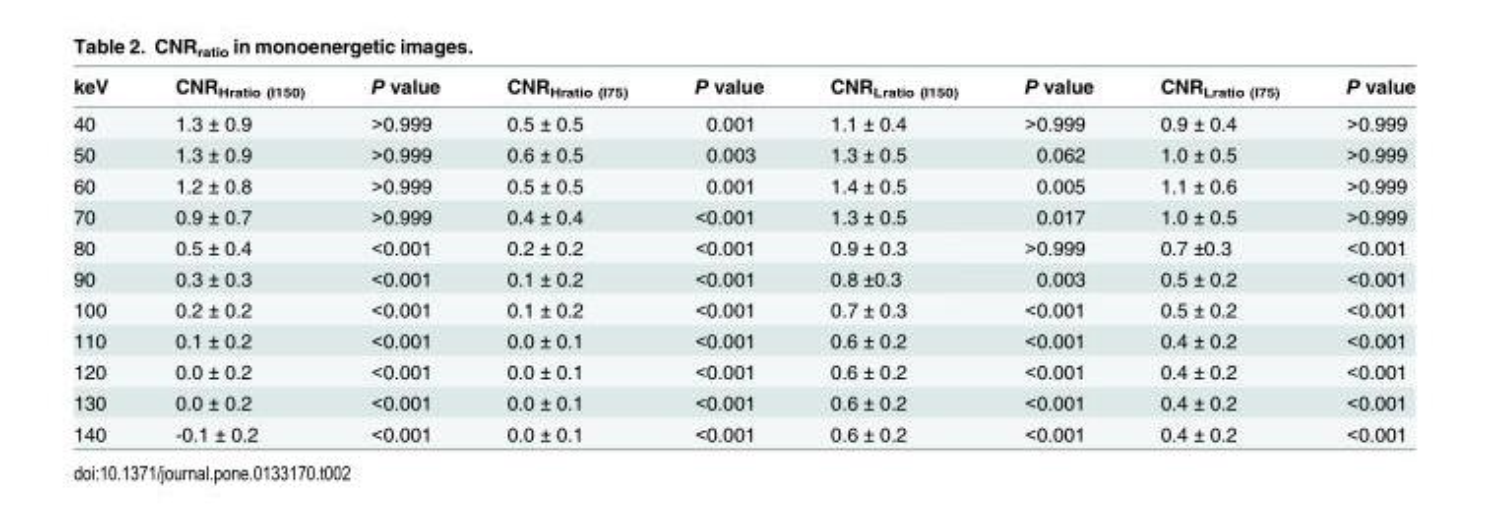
<table><thead><tr><td>keV</td><td>CNR<sub>Hratio (I150)</sub></td><td>P value</td><td>CNR<sub>Hratio (I75)</sub></td><td>P value</td><td>CNR<sub>Lratio (I150)</sub></td><td>P value</td><td>CNR<sub>Lratio (I75)</sub></td><td>P value</td></tr></thead><tbody><tr><td>40</td><td>1.3 ± 0.9</td><td>&gt;0.999</td><td>0.5 ± 0.5</td><td>0.001</td><td>1.1 ± 0.4</td><td>&gt;0.999</td><td>0.9 ± 0.4</td><td>&gt;0.999</td></tr><tr><td>50</td><td>1.3 ± 0.9</td><td>&gt;0.999</td><td>0.6 ± 0.5</td><td>0.003</td><td>1.3 ± 0.5</td><td>0.062</td><td>1.0 ± 0.5</td><td>&gt;0.999</td></tr><tr><td>60</td><td>1.2 ± 0.8</td><td>&gt;0.999</td><td>0.5 ± 0.5</td><td>0.001</td><td>1.4 ± 0.5</td><td>0.005</td><td>1.1 ± 0.6</td><td>&gt;0.999</td></tr><tr><td>70</td><td>0.9 ± 0.7</td><td>&gt;0.999</td><td>0.4 ± 0.4</td><td>&lt;0.001</td><td>1.3 ± 0.5</td><td>0.017</td><td>1.0 ± 0.5</td><td>&gt;0.999</td></tr><tr><td>80</td><td>0.5 ± 0.4</td><td>&lt;0.001</td><td>0.2 ± 0.2</td><td>&lt;0.001</td><td>0.9 ± 0.3</td><td>&gt;0.999</td><td>0.7 ±0.3</td><td>&lt;0.001</td></tr><tr><td>90</td><td>0.3 ± 0.3</td><td>&lt;0.001</td><td>0.1 ± 0.2</td><td>&lt;0.001</td><td>0.8 ±0.3</td><td>0.003</td><td>0.5 ± 0.2</td><td>&lt;0.001</td></tr><tr><td>100</td><td>0.2 ± 0.2</td><td>&lt;0.001</td><td>0.1 ± 0.2</td><td>&lt;0.001</td><td>0.7 ± 0.3</td><td>&lt;0.001</td><td>0.5 ± 0.2</td><td>&lt;0.001</td></tr><tr><td>110</td><td>0.1 ± 0.2</td><td>&lt;0.001</td><td>0.0 ± 0.1</td><td>&lt;0.001</td><td>0.6 ± 0.2</td><td>&lt;0.001</td><td>0.4 ± 0.2</td><td>&lt;0.001</td></tr><tr><td>120</td><td>0.0 ± 0.2</td><td>&lt;0.001</td><td>0.0 ± 0.1</td><td>&lt;0.001</td><td>0.6 ± 0.2</td><td>&lt;0.001</td><td>0.4 ± 0.2</td><td>&lt;0.001</td></tr><tr><td>130</td><td>0.0 ± 0.2</td><td>&lt;0.001</td><td>0.0 ± 0.1</td><td>&lt;0.001</td><td>0.6 ± 0.2</td><td>&lt;0.001</td><td>0.4 ± 0.2</td><td>&lt;0.001</td></tr><tr><td>140</td><td>-0.1 ± 0.2</td><td>&lt;0.001</td><td>0.0 ± 0.1</td><td>&lt;0.001</td><td>0.6 ± 0.2</td><td>&lt;0.001</td><td>0.4 ± 0.2</td><td>&lt;0.001</td></tr></tbody></table>